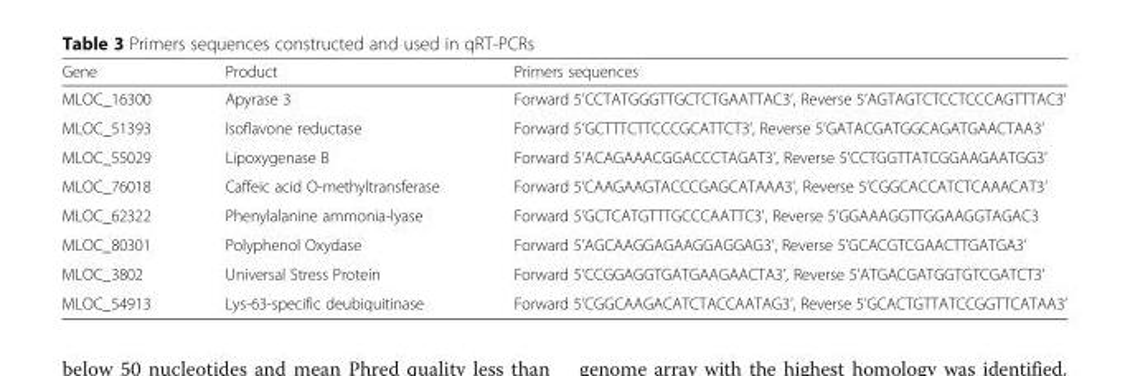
<table><thead><tr><td>Gene</td><td>Product</td><td>Primers sequences</td></tr></thead><tbody><tr><td>MLOC_16300</td><td>Apyrase 3</td><td>Forward 5’CCTATGGGTTGCTCTGAATTAC3’, Reverse 5’AGTAGTCTCCTCCCAGTTTAC3’</td></tr><tr><td>MLOC_51393</td><td>Isoflavone reductase</td><td>Forward 5’GCTTTCTTCCCGCATTCT3’, Reverse 5’GATACGATGGCAGATGAACTAA3’</td></tr><tr><td>MLOC_55029</td><td>Lipoxygenase B</td><td>Forward 5’ACAGAAACGGACCCTAGAT3’, Reverse 5’CCTGGTTATCGGAAGAATGG3’</td></tr><tr><td>MLOC_76018</td><td>Caffeic acid O-methyltransferase</td><td>Forward 5’CAAGAAGTACCCGAGCATAAA3’, Reverse 5’CGGCACCATCTCAAACAT3’</td></tr><tr><td>MLOC_62322</td><td>Phenylalanine ammonia-lyase</td><td>Forward 5’GCTCATGTTTGCCCAATTC3’, Reverse 5’GGAAAGGTTGGAAGGTAGAC3</td></tr><tr><td>MLOC_80301</td><td>Polyphenol Oxydase</td><td>Forward 5’AGCAAGGAGAAGGAGGAG3’, Reverse 5’GCACGTCGAACTTGATGA3’</td></tr><tr><td>MLOC_3802</td><td>Universal Stress Protein</td><td>Forward 5’CCGGAGGTGATGAAGAACTA3’, Reverse 5’ATGACGATGGTGTCGATCT3’</td></tr><tr><td>MLOC_54913</td><td>Lys-63-specific deubiquitinase</td><td>Forward 5’CGGCAAGACATCTACCAATAG3’, Reverse 5’GCACTGTTATCCGGTTCATAA3’</td></tr></tbody></table>